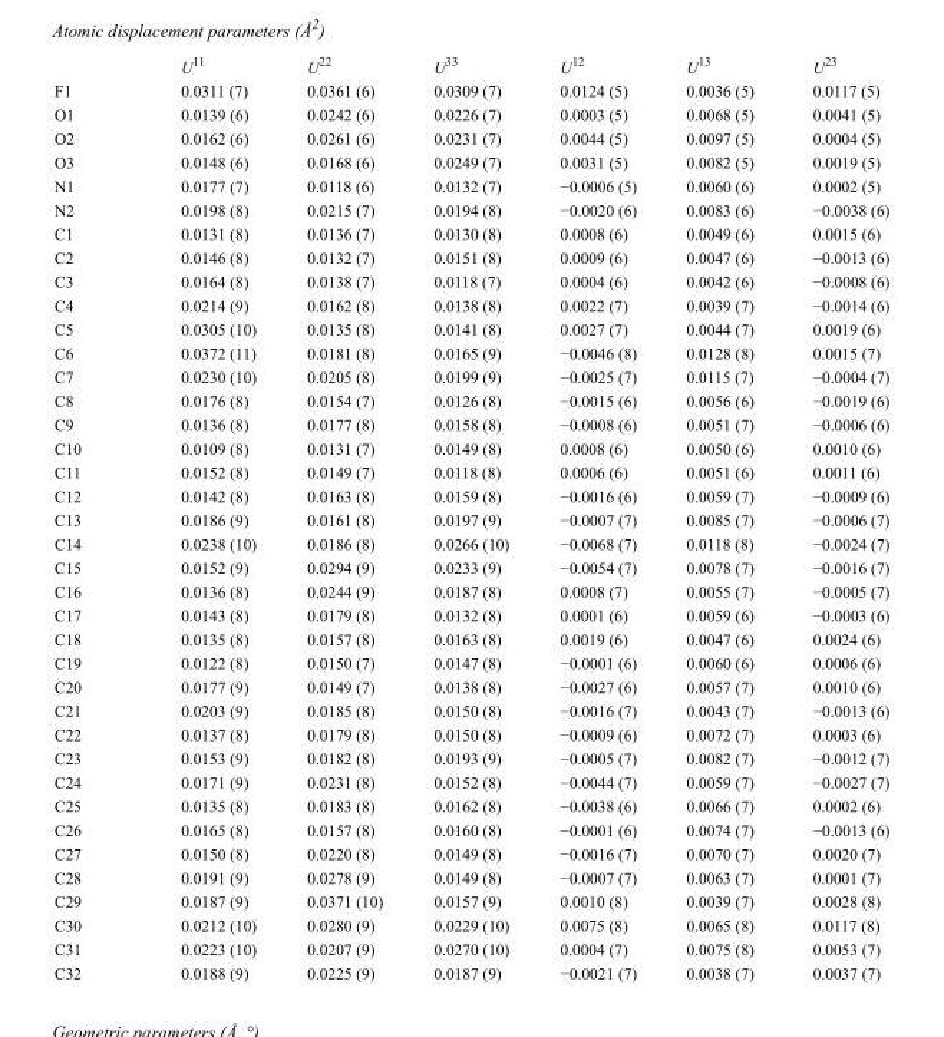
<table><thead><tr><td></td><td>U<sup>11</sup></td><td>U<sup>22</sup></td><td>U<sup>33</sup></td><td>U<sup>12</sup></td><td>U<sup>13</sup></td><td>U<sup>23</sup></td></tr></thead><tbody><tr><td>F1</td><td>0.0311 (7)</td><td>0.0361 (6)</td><td>0.0309 (7)</td><td>0.0124 (5)</td><td>0.0036 (5)</td><td>0.0117 (5)</td></tr><tr><td>O1</td><td>0.0139 (6)</td><td>0.0242 (6)</td><td>0.0226 (7)</td><td>0.0003 (5)</td><td>0.0068 (5)</td><td>0.0041 (5)</td></tr><tr><td>O2</td><td>0.0162 (6)</td><td>0.0261 (6)</td><td>0.0231 (7)</td><td>0.0044 (5)</td><td>0.0097 (5)</td><td>0.0004 (5)</td></tr><tr><td>O3</td><td>0.0148 (6)</td><td>0.0168 (6)</td><td>0.0249 (7)</td><td>0.0031 (5)</td><td>0.0082 (5)</td><td>0.0019 (5)</td></tr><tr><td>N1</td><td>0.0177 (7)</td><td>0.0118 (6)</td><td>0.0132 (7)</td><td>−0.0006 (5)</td><td>0.0060 (6)</td><td>0.0002 (5)</td></tr><tr><td>N2</td><td>0.0198 (8)</td><td>0.0215 (7)</td><td>0.0194 (8)</td><td>−0.0020 (6)</td><td>0.0083 (6)</td><td>−0.0038 (6)</td></tr><tr><td>C1</td><td>0.0131 (8)</td><td>0.0136 (7)</td><td>0.0130 (8)</td><td>0.0008 (6)</td><td>0.0049 (6)</td><td>0.0015 (6)</td></tr><tr><td>C2</td><td>0.0146 (8)</td><td>0.0132 (7)</td><td>0.0151 (8)</td><td>0.0009 (6)</td><td>0.0047 (6)</td><td>−0.0013 (6)</td></tr><tr><td>C3</td><td>0.0164 (8)</td><td>0.0138 (7)</td><td>0.0118 (7)</td><td>0.0004 (6)</td><td>0.0042 (6)</td><td>−0.0008 (6)</td></tr><tr><td>C4</td><td>0.0214 (9)</td><td>0.0162 (8)</td><td>0.0138 (8)</td><td>0.0022 (7)</td><td>0.0039 (7)</td><td>−0.0014 (6)</td></tr><tr><td>C5</td><td>0.0305 (10)</td><td>0.0135 (8)</td><td>0.0141 (8)</td><td>0.0027 (7)</td><td>0.0044 (7)</td><td>0.0019 (6)</td></tr><tr><td>C6</td><td>0.0372 (11)</td><td>0.0181 (8)</td><td>0.0165 (9)</td><td>−0.0046 (8)</td><td>0.0128 (8)</td><td>0.0015 (7)</td></tr><tr><td>C7</td><td>0.0230 (10)</td><td>0.0205 (8)</td><td>0.0199 (9)</td><td>−0.0025 (7)</td><td>0.0115 (7)</td><td>−0.0004 (7)</td></tr><tr><td>C8</td><td>0.0176 (8)</td><td>0.0154 (7)</td><td>0.0126 (8)</td><td>−0.0015 (6)</td><td>0.0056 (6)</td><td>−0.0019 (6)</td></tr><tr><td>C9</td><td>0.0136 (8)</td><td>0.0177 (8)</td><td>0.0158 (8)</td><td>−0.0008 (6)</td><td>0.0051 (7)</td><td>−0.0006 (6)</td></tr><tr><td>C10</td><td>0.0109 (8)</td><td>0.0131 (7)</td><td>0.0149 (8)</td><td>0.0008 (6)</td><td>0.0050 (6)</td><td>0.0010 (6)</td></tr><tr><td>C11</td><td>0.0152 (8)</td><td>0.0149 (7)</td><td>0.0118 (8)</td><td>0.0006 (6)</td><td>0.0051 (6)</td><td>0.0011 (6)</td></tr><tr><td>C12</td><td>0.0142 (8)</td><td>0.0163 (8)</td><td>0.0159 (8)</td><td>−0.0016 (6)</td><td>0.0059 (7)</td><td>−0.0009 (6)</td></tr><tr><td>C13</td><td>0.0186 (9)</td><td>0.0161 (8)</td><td>0.0197 (9)</td><td>−0.0007 (7)</td><td>0.0085 (7)</td><td>−0.0006 (7)</td></tr><tr><td>C14</td><td>0.0238 (10)</td><td>0.0186 (8)</td><td>0.0266 (10)</td><td>−0.0068 (7)</td><td>0.0118 (8)</td><td>−0.0024 (7)</td></tr><tr><td>C15</td><td>0.0152 (9)</td><td>0.0294 (9)</td><td>0.0233 (9)</td><td>−0.0054 (7)</td><td>0.0078 (7)</td><td>−0.0016 (7)</td></tr><tr><td>C16</td><td>0.0136 (8)</td><td>0.0244 (9)</td><td>0.0187 (8)</td><td>0.0008 (7)</td><td>0.0055 (7)</td><td>−0.0005 (7)</td></tr><tr><td>C17</td><td>0.0143 (8)</td><td>0.0179 (8)</td><td>0.0132 (8)</td><td>0.0001 (6)</td><td>0.0059 (6)</td><td>−0.0003 (6)</td></tr><tr><td>C18</td><td>0.0135 (8)</td><td>0.0157 (8)</td><td>0.0163 (8)</td><td>0.0019 (6)</td><td>0.0047 (6)</td><td>0.0024 (6)</td></tr><tr><td>C19</td><td>0.0122 (8)</td><td>0.0150 (7)</td><td>0.0147 (8)</td><td>−0.0001 (6)</td><td>0.0060 (6)</td><td>0.0006 (6)</td></tr><tr><td>C20</td><td>0.0177 (9)</td><td>0.0149 (7)</td><td>0.0138 (8)</td><td>−0.0027 (6)</td><td>0.0057 (7)</td><td>0.0010 (6)</td></tr><tr><td>C21</td><td>0.0203 (9)</td><td>0.0185 (8)</td><td>0.0150 (8)</td><td>−0.0016 (7)</td><td>0.0043 (7)</td><td>−0.0013 (6)</td></tr><tr><td>C22</td><td>0.0137 (8)</td><td>0.0179 (8)</td><td>0.0150 (8)</td><td>−0.0009 (6)</td><td>0.0072 (7)</td><td>0.0003 (6)</td></tr><tr><td>C23</td><td>0.0153 (9)</td><td>0.0182 (8)</td><td>0.0193 (9)</td><td>−0.0005 (7)</td><td>0.0082 (7)</td><td>−0.0012 (7)</td></tr><tr><td>C24</td><td>0.0171 (9)</td><td>0.0231 (8)</td><td>0.0152 (8)</td><td>−0.0044 (7)</td><td>0.0059 (7)</td><td>−0.0027 (7)</td></tr><tr><td>C25</td><td>0.0135 (8)</td><td>0.0183 (8)</td><td>0.0162 (8)</td><td>−0.0038 (6)</td><td>0.0066 (7)</td><td>0.0002 (6)</td></tr><tr><td>C26</td><td>0.0165 (8)</td><td>0.0157 (8)</td><td>0.0160 (8)</td><td>−0.0001 (6)</td><td>0.0074 (7)</td><td>−0.0013 (6)</td></tr><tr><td>C27</td><td>0.0150 (8)</td><td>0.0220 (8)</td><td>0.0149 (8)</td><td>−0.0016 (7)</td><td>0.0070 (7)</td><td>0.0020 (7)</td></tr><tr><td>C28</td><td>0.0191 (9)</td><td>0.0278 (9)</td><td>0.0149 (8)</td><td>−0.0007 (7)</td><td>0.0063 (7)</td><td>0.0001 (7)</td></tr><tr><td>C29</td><td>0.0187 (9)</td><td>0.0371 (10)</td><td>0.0157 (9)</td><td>0.0010 (8)</td><td>0.0039 (7)</td><td>0.0028 (8)</td></tr><tr><td>C30</td><td>0.0212 (10)</td><td>0.0280 (9)</td><td>0.0229 (10)</td><td>0.0075 (8)</td><td>0.0065 (8)</td><td>0.0117 (8)</td></tr><tr><td>C31</td><td>0.0223 (10)</td><td>0.0207 (9)</td><td>0.0270 (10)</td><td>0.0004 (7)</td><td>0.0075 (8)</td><td>0.0053 (7)</td></tr><tr><td>C32</td><td>0.0188 (9)</td><td>0.0225 (9)</td><td>0.0187 (9)</td><td>−0.0021 (7)</td><td>0.0038 (7)</td><td>0.0037 (7)</td></tr></tbody></table>